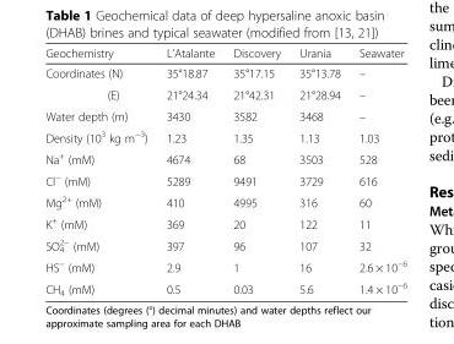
<table><thead><tr><td>Geochemistry</td><td>L’Atalante</td><td>Discovery</td><td>Urania</td><td>Seawater</td></tr></thead><tbody><tr><td>Coordinates (N)</td><td>35°18.87</td><td>35°17.15</td><td>35°13.78</td><td>–</td></tr><tr><td>(E)</td><td>21°24.34</td><td>21°42.31</td><td>21°28.94</td><td>–</td></tr><tr><td>Water depth (m)</td><td>3430</td><td>3582</td><td>3468</td><td>–</td></tr><tr><td>Density (10<sup>3</sup> kg m<sup>−3</sup>)</td><td>1.23</td><td>1.35</td><td>1.13</td><td>1.03</td></tr><tr><td>Na<sup>+</sup> (mM)</td><td>4674</td><td>68</td><td>3503</td><td>528</td></tr><tr><td>Cl<sup>−</sup> (mM)</td><td>5289</td><td>9491</td><td>3729</td><td>616</td></tr><tr><td>Mg<sup>2+</sup> (mM)</td><td>410</td><td>4995</td><td>316</td><td>60</td></tr><tr><td>K<sup>+</sup> (mM)</td><td>369</td><td>20</td><td>122</td><td>11</td></tr><tr><td>SO<sub>4</sub> <sup>2−</sup> (mM)</td><td>397</td><td>96</td><td>107</td><td>32</td></tr><tr><td>HS<sup>−</sup> (mM)</td><td>2.9</td><td>1</td><td>16</td><td>2.6 × 10<sup>−6</sup></td></tr><tr><td>CH<sub>4</sub> (mM)</td><td>0.5</td><td>0.03</td><td>5.6</td><td>1.4 × 10<sup>−6</sup></td></tr></tbody></table>